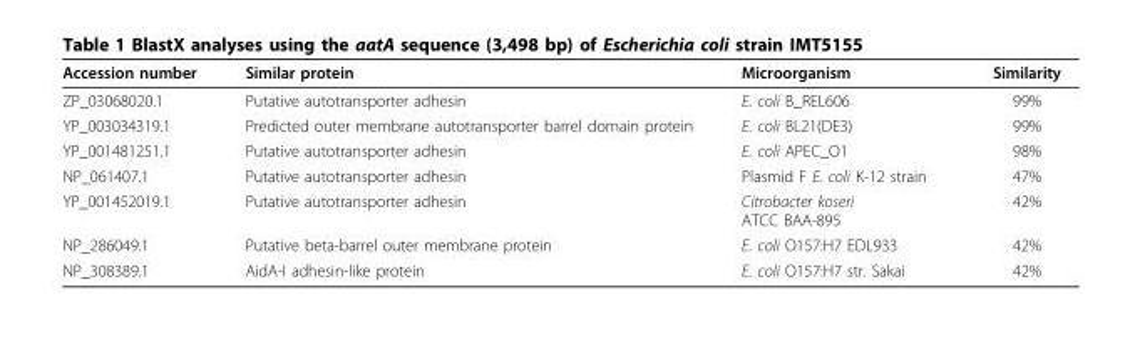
<table><thead><tr><td>Accession number</td><td>Similar protein</td><td>Microorganism</td><td>Similarity</td></tr></thead><tbody><tr><td>ZP_03068020.1</td><td>Putative autotransporter adhesin</td><td>E. coli B_REL606</td><td>99%</td></tr><tr><td>YP_003034319.1</td><td>Predicted outer membrane autotransporter barrel domain protein</td><td>E. coli BL21(DE3)</td><td>99%</td></tr><tr><td>YP_001481251.1</td><td>Putative autotransporter adhesin</td><td>E. coli APEC_O1</td><td>98%</td></tr><tr><td>NP_061407.1</td><td>Putative autotransporter adhesin</td><td>Plasmid F E. coli K-12 strain</td><td>47%</td></tr><tr><td>YP_001452019.1</td><td>Putative autotransporter adhesin</td><td>Citrobacter koseri ATCC BAA-895</td><td>42%</td></tr><tr><td>NP_286049.1</td><td>Putative beta-barrel outer membrane protein</td><td>E. coli O157:H7 EDL933</td><td>42%</td></tr><tr><td>NP_308389.1</td><td>AidA-I adhesin-like protein</td><td>E. coli O157:H7 str. Sakai</td><td>42%</td></tr></tbody></table>